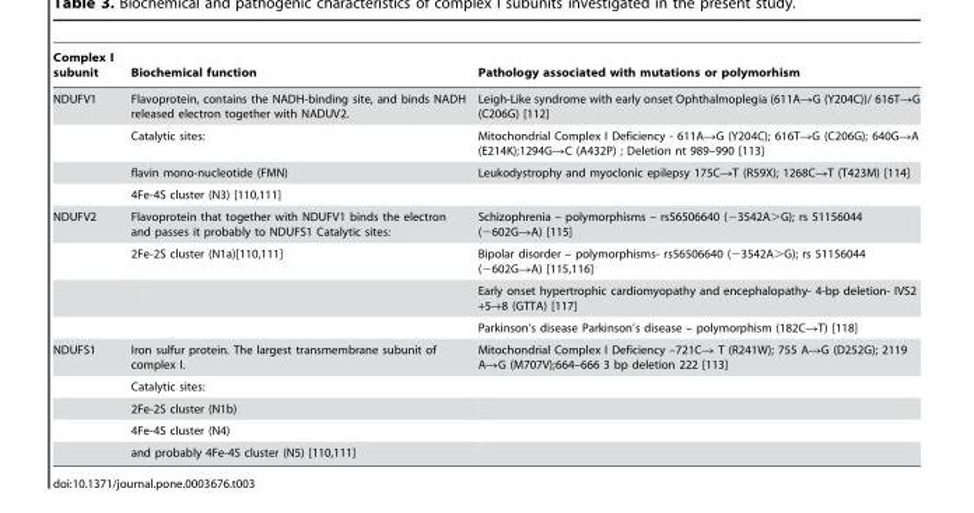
<table><thead><tr><td>Complex I subunit</td><td>Biochemical function</td><td>Pathology associated with mutations or polymorhism</td></tr></thead><tbody><tr><td rowspan="4">NDUFV1</td><td>Flavoprotein, contains the NADH-binding site, and binds NADH released electron together with NADUV2.</td><td>Leigh-Like syndrome with early onset Ophthalmoplegia (611A→G (Y204C))/ 616T→G (C206G) [112]</td></tr><tr><td>Catalytic sites:</td><td>Mitochondrial Complex I Deficiency - 611A→G (Y204C); 616T→G (C206G); 640G→A (E214K);1294G→C (A432P) ; Deletion nt 989–990 [113]</td></tr><tr><td>flavin mono-nucleotide (FMN)</td><td>Leukodystrophy and myoclonic epilepsy 175C→T (R59X); 1268C→T (T423M) [114]</td></tr><tr><td>4Fe-4S cluster (N3) [110,111]</td><td></td></tr><tr><td rowspan="4">NDUFV2</td><td>Flavoprotein that together with NDUFV1 binds the electron and passes it probably to NDUFS1 Catalytic sites:</td><td>Schizophrenia – polymorphisms – rs56506640 (−3542A&gt;G); rs 51156044 (−602G→A) [115]</td></tr><tr><td>2Fe-2S cluster (N1a)[110,111]</td><td>Bipolar disorder – polymorphisms- rs56506640 (23542A.G); rs 51156044 (2602GRA) [115,116]</td></tr><tr><td></td><td>Early onset hypertrophic cardiomyopathy and encephalopathy- 4-bp deletion- IVS2 +5-+8 (GTTA) [117]</td></tr><tr><td></td><td>Parkinson’s disease Parkinson’s disease – polymorphism (182C→T) [118]</td></tr><tr><td rowspan="5">NDUFS1</td><td>Iron sulfur protein. The largest transmembrane subunit of complex I.</td><td>Mitochondrial Complex I Deficiency –721C→ T (R241W); 755 A→G (D252G); 2119 A→G (M707V);664–666 3 bp deletion 222 [113]</td></tr><tr><td>Catalytic sites:</td><td></td></tr><tr><td>2Fe-2S cluster (N1b)</td><td></td></tr><tr><td>4Fe-4S cluster (N4)</td><td></td></tr><tr><td>and probably 4Fe-4S cluster (N5) [110,111]</td><td></td></tr></tbody></table>